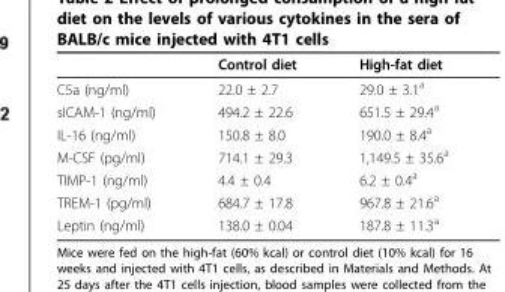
<table><thead><tr><td></td><td>Control diet</td><td>High-fat diet</td></tr></thead><tbody><tr><td>C5a (ng/ml)</td><td>22.0 ± 2.7</td><td>29.0 ± 3.1<sup>a</sup></td></tr><tr><td>sICAM-1 (ng/ml)</td><td>494.2 ± 22.6</td><td>651.5 ± 29.4<sup>a</sup></td></tr><tr><td>IL-16 (ng/ml)</td><td>150.8 ± 8.0</td><td>190.0 ± 8.4<sup>a</sup></td></tr><tr><td>M-CSF (pg/ml)</td><td>714.1 ± 29.3</td><td>1,149.5 ± 35.6<sup>a</sup></td></tr><tr><td>TIMP-1 (ng/ml)</td><td>4.4 ± 0.4</td><td>6.2 ± 0.4<sup>a</sup></td></tr><tr><td>TREM-1 (pg/ml)</td><td>684.7 ± 17.8</td><td>967.8 ± 21.6<sup>a</sup></td></tr><tr><td>Leptin (ng/ml)</td><td>138.0 ± 0.04</td><td>187.8 ± 11.3<sup>a</sup></td></tr></tbody></table>